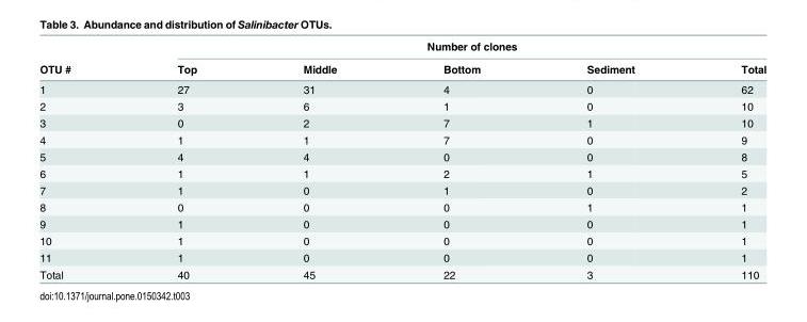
<table><thead><tr><td rowspan="2">OTU #</td><td colspan="5">Number of clones</td></tr><tr><td>Top</td><td>Middle</td><td>Bottom</td><td>Sediment</td><td>Total</td></tr></thead><tbody><tr><td>1</td><td>27</td><td>31</td><td>4</td><td>0</td><td>62</td></tr><tr><td>2</td><td>3</td><td>6</td><td>1</td><td>0</td><td>10</td></tr><tr><td>3</td><td>0</td><td>2</td><td>7</td><td>1</td><td>10</td></tr><tr><td>4</td><td>1</td><td>1</td><td>7</td><td>0</td><td>9</td></tr><tr><td>5</td><td>4</td><td>4</td><td>0</td><td>0</td><td>8</td></tr><tr><td>6</td><td>1</td><td>1</td><td>2</td><td>1</td><td>5</td></tr><tr><td>7</td><td>1</td><td>0</td><td>1</td><td>0</td><td>2</td></tr><tr><td>8</td><td>0</td><td>0</td><td>0</td><td>1</td><td>1</td></tr><tr><td>9</td><td>1</td><td>0</td><td>0</td><td>0</td><td>1</td></tr><tr><td>10</td><td>1</td><td>0</td><td>0</td><td>0</td><td>1</td></tr><tr><td>11</td><td>1</td><td>0</td><td>0</td><td>0</td><td>1</td></tr><tr><td>Total</td><td>40</td><td>45</td><td>22</td><td>3</td><td>110</td></tr></tbody></table>